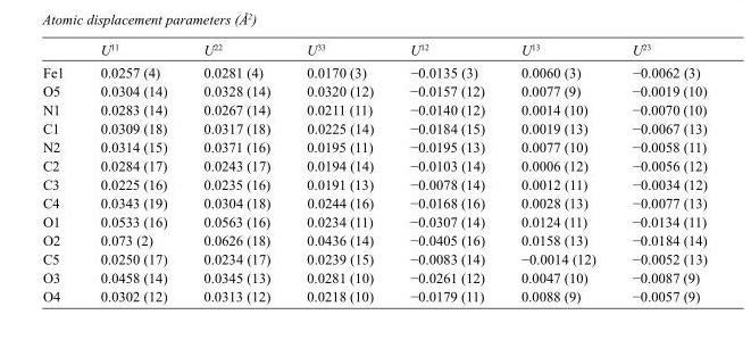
<table><thead><tr><td></td><td>U<sup>11</sup></td><td>U<sup>22</sup></td><td>U<sup>33</sup></td><td>U<sup>12</sup></td><td>U<sup>13</sup></td><td>U<sup>23</sup></td></tr></thead><tbody><tr><td>Fe1</td><td>0.0257 (4)</td><td>0.0281 (4)</td><td>0.0170 (3)</td><td>−0.0135 (3)</td><td>0.0060 (3)</td><td>−0.0062 (3)</td></tr><tr><td>O5</td><td>0.0304 (14)</td><td>0.0328 (14)</td><td>0.0320 (12)</td><td>−0.0157 (12)</td><td>0.0077 (9)</td><td>−0.0019 (10)</td></tr><tr><td>N1</td><td>0.0283 (14)</td><td>0.0267 (14)</td><td>0.0211 (11)</td><td>−0.0140 (12)</td><td>0.0014 (10)</td><td>−0.0070 (10)</td></tr><tr><td>C1</td><td>0.0309 (18)</td><td>0.0317 (18)</td><td>0.0225 (14)</td><td>−0.0184 (15)</td><td>0.0019 (13)</td><td>−0.0067 (13)</td></tr><tr><td>N2</td><td>0.0314 (15)</td><td>0.0371 (16)</td><td>0.0195 (11)</td><td>−0.0195 (13)</td><td>0.0077 (10)</td><td>−0.0058 (11)</td></tr><tr><td>C2</td><td>0.0284 (17)</td><td>0.0243 (17)</td><td>0.0194 (14)</td><td>−0.0103 (14)</td><td>0.0006 (12)</td><td>−0.0056 (12)</td></tr><tr><td>C3</td><td>0.0225 (16)</td><td>0.0235 (16)</td><td>0.0191 (13)</td><td>−0.0078 (14)</td><td>0.0012 (11)</td><td>−0.0034 (12)</td></tr><tr><td>C4</td><td>0.0343 (19)</td><td>0.0304 (18)</td><td>0.0244 (16)</td><td>−0.0168 (16)</td><td>0.0028 (13)</td><td>−0.0077 (13)</td></tr><tr><td>O1</td><td>0.0533 (16)</td><td>0.0563 (16)</td><td>0.0234 (11)</td><td>−0.0307 (14)</td><td>0.0124 (11)</td><td>−0.0134 (11)</td></tr><tr><td>O2</td><td>0.073 (2)</td><td>0.0626 (18)</td><td>0.0436 (14)</td><td>−0.0405 (16)</td><td>0.0158 (13)</td><td>−0.0184 (14)</td></tr><tr><td>C5</td><td>0.0250 (17)</td><td>0.0234 (17)</td><td>0.0239 (15)</td><td>−0.0083 (14)</td><td>−0.0014 (12)</td><td>−0.0052 (13)</td></tr><tr><td>O3</td><td>0.0458 (14)</td><td>0.0345 (13)</td><td>0.0281 (10)</td><td>−0.0261 (12)</td><td>0.0047 (10)</td><td>−0.0087 (9)</td></tr><tr><td>O4</td><td>0.0302 (12)</td><td>0.0313 (12)</td><td>0.0218 (10)</td><td>−0.0179 (11)</td><td>0.0088 (9)</td><td>−0.0057 (9)</td></tr></tbody></table>